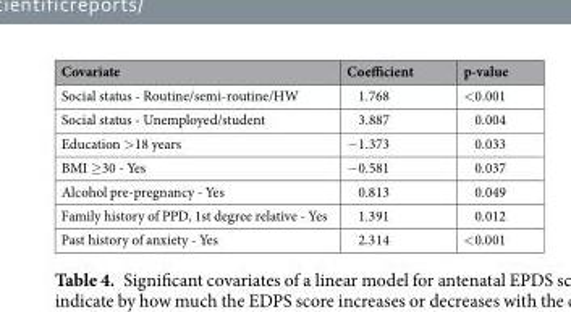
<table><thead><tr><td>Covariate</td><td>Coefficient</td><td>p-value</td></tr></thead><tbody><tr><td>Social status - Routine/semi-routine/HW</td><td>1.768</td><td>&lt;0.001</td></tr><tr><td>Social status - Unemployed/student</td><td>3.887</td><td>0.004</td></tr><tr><td>Education &gt;18 years</td><td>−1.373</td><td>0.033</td></tr><tr><td>BMI ≥30 - Yes</td><td>−0.581</td><td>0.037</td></tr><tr><td>Alcohol pre-pregnancy - Yes</td><td>0.813</td><td>0.049</td></tr><tr><td>Family history of PPD, 1st degree relative - Yes</td><td>1.391</td><td>0.012</td></tr><tr><td>Past history of anxiety - Yes</td><td>2.314</td><td>&lt;0.001</td></tr></tbody></table>